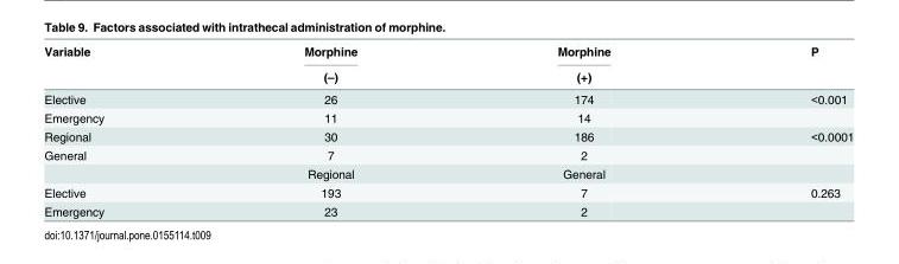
<table><thead><tr><td rowspan="2">Variable</td><td rowspan="2">Morphine (–)</td><td rowspan="2">Morphine (+)</td><td rowspan="2">P</td></tr><tr></tr></thead><tbody><tr><td>Elective</td><td>26</td><td>174</td><td>&lt;0.001</td></tr><tr><td>Emergency</td><td>11</td><td>14</td><td></td></tr><tr><td>Regional</td><td>30</td><td>186</td><td>&lt;0.0001</td></tr><tr><td rowspan="2">General</td><td>7</td><td>2</td><td></td></tr><tr><td>Regional</td><td>General</td><td></td></tr><tr><td>Elective</td><td>193</td><td>7</td><td>0.263</td></tr><tr><td>Emergency</td><td>23</td><td>2</td><td></td></tr></tbody></table>